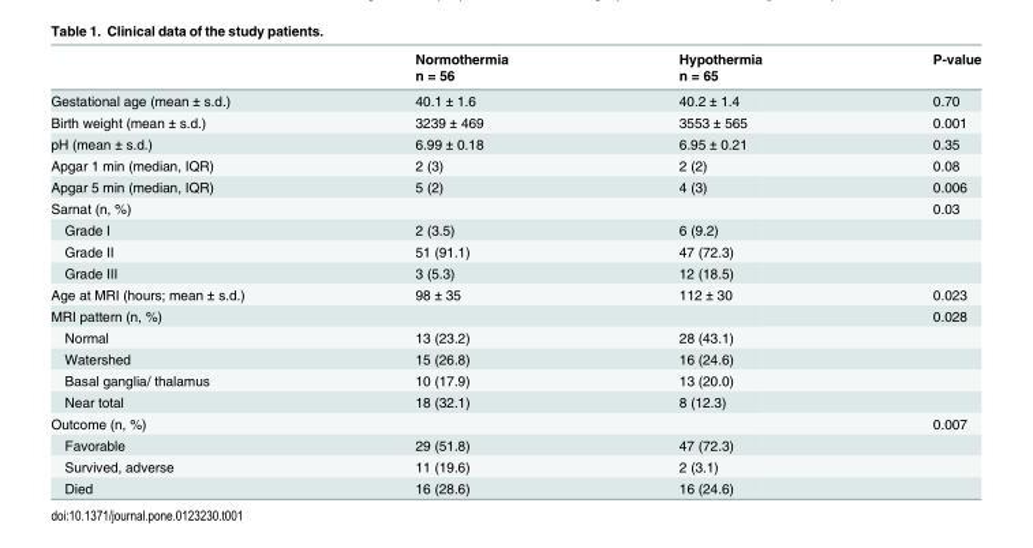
<table><thead><tr><td rowspan="2"></td><td rowspan="2">Normothermia n = 56</td><td rowspan="2">Hypothermia n = 65</td><td rowspan="2">P-value</td></tr><tr></tr></thead><tbody><tr><td>Gestational age (mean ± s.d.)</td><td>40.1 ± 1.6</td><td>40.2 ± 1.4</td><td>0.70</td></tr><tr><td>Birth weight (mean ± s.d.)</td><td>3239 ± 469</td><td>3553 ± 565</td><td>0.001</td></tr><tr><td>pH (mean ± s.d.)</td><td>6.99 ± 0.18</td><td>6.95 ± 0.21</td><td>0.35</td></tr><tr><td>Apgar 1 min (median, IQR)</td><td>2 (3)</td><td>2 (2)</td><td>0.08</td></tr><tr><td>Apgar 5 min (median, IQR)</td><td>5 (2)</td><td>4 (3)</td><td>0.006</td></tr><tr><td>Sarnat (n, %)</td><td></td><td></td><td>0.03</td></tr><tr><td>Grade I</td><td>2 (3.5)</td><td>6 (9.2)</td><td></td></tr><tr><td>Grade II</td><td>51 (91.1)</td><td>47 (72.3)</td><td></td></tr><tr><td>Grade III</td><td>3 (5.3)</td><td>12 (18.5)</td><td></td></tr><tr><td>Age at MRI (hours; mean ± s.d.)</td><td>98 ± 35</td><td>112 ± 30</td><td>0.023</td></tr><tr><td>MRI pattern (n, %)</td><td></td><td></td><td>0.028</td></tr><tr><td>Normal</td><td>13 (23.2)</td><td>28 (43.1)</td><td></td></tr><tr><td>Watershed</td><td>15 (26.8)</td><td>16 (24.6)</td><td></td></tr><tr><td>Basal ganglia/ thalamus</td><td>10 (17.9)</td><td>13 (20.0)</td><td></td></tr><tr><td>Near total</td><td>18 (32.1)</td><td>8 (12.3)</td><td></td></tr><tr><td>Outcome (n, %)</td><td></td><td></td><td>0.007</td></tr><tr><td>Favorable</td><td>29 (51.8)</td><td>47 (72.3)</td><td></td></tr><tr><td>Survived, adverse</td><td>11 (19.6)</td><td>2 (3.1)</td><td></td></tr><tr><td>Died</td><td>16 (28.6)</td><td>16 (24.6)</td><td></td></tr></tbody></table>